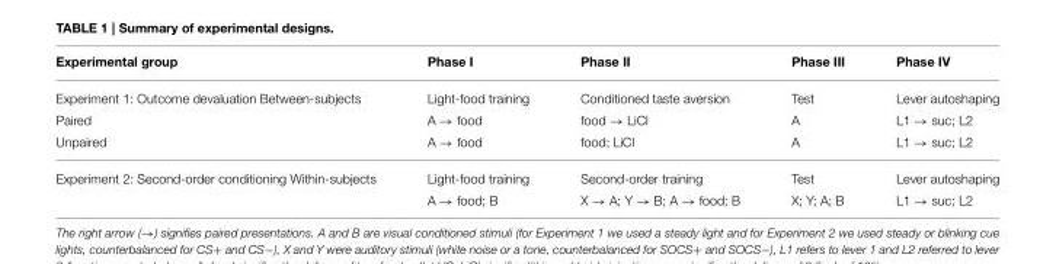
<table><thead><tr><td>Experimental group</td><td>Phase I</td><td>Phase II</td><td>Phase III</td><td>Phase IV</td></tr></thead><tbody><tr><td>Experiment 1: Outcome devaluation Between-subjects</td><td>Light-food training</td><td>Conditioned taste aversion</td><td>Test</td><td>Lever autoshaping</td></tr><tr><td>Paired</td><td>A → food</td><td>food → LiCl</td><td>A</td><td>L1 → suc; L2</td></tr><tr><td>Unpaired</td><td>A → food</td><td>food; LiCl</td><td>A</td><td>L1 → suc; L2</td></tr><tr><td rowspan="2">Experiment 2: Second-order conditioning Within-subjects</td><td>Light-food training</td><td>Second-order training</td><td>Test</td><td>Lever autoshaping</td></tr><tr><td>A → food; B</td><td>X → A; Y → B; A → food; B</td><td>X; Y; A; B</td><td>L1 → suc; L2</td></tr></tbody></table>